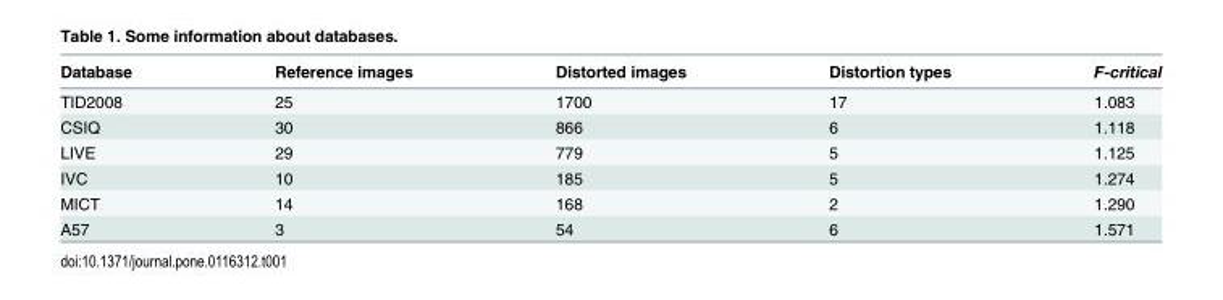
<table><thead><tr><td>Database</td><td>Reference images</td><td>Distorted images</td><td>Distortion types</td><td>F-critical</td></tr></thead><tbody><tr><td>TID2008</td><td>25</td><td>1700</td><td>17</td><td>1.083</td></tr><tr><td>CSIQ</td><td>30</td><td>866</td><td>6</td><td>1.118</td></tr><tr><td>LIVE</td><td>29</td><td>779</td><td>5</td><td>1.125</td></tr><tr><td>IVC</td><td>10</td><td>185</td><td>5</td><td>1.274</td></tr><tr><td>MICT</td><td>14</td><td>168</td><td>2</td><td>1.290</td></tr><tr><td>A57</td><td>3</td><td>54</td><td>6</td><td>1.571</td></tr></tbody></table>